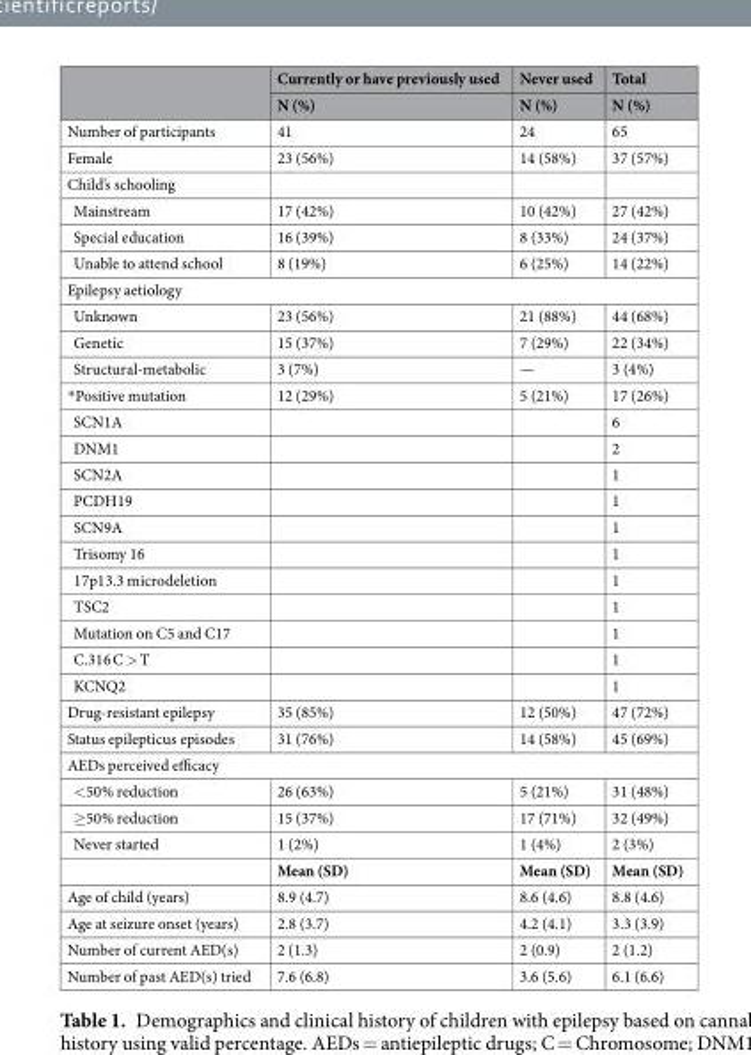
<table><thead><tr><td rowspan="2"></td><td rowspan="2">Currently or have previously used N (%)</td><td rowspan="2">Never used N (%)</td><td rowspan="2">Total N (%)</td></tr><tr></tr></thead><tbody><tr><td>Number of participants</td><td>41</td><td>24</td><td>65</td></tr><tr><td>Female</td><td>23 (56%)</td><td>14 (58%)</td><td>37 (57%)</td></tr><tr><td colspan="4">Child’s schooling</td></tr><tr><td>Mainstream</td><td>17 (42%)</td><td>10 (42%)</td><td>27 (42%)</td></tr><tr><td>Special education</td><td>16 (39%)</td><td>8 (33%)</td><td>24 (37%)</td></tr><tr><td>Unable to attend school</td><td>8 (19%)</td><td>6 (25%)</td><td>14 (22%)</td></tr><tr><td colspan="4">Epilepsy aetiology</td></tr><tr><td>Unknown</td><td>23 (56%)</td><td>21 (88%)</td><td>44 (68%)</td></tr><tr><td>Genetic</td><td>15 (37%)</td><td>7 (29%)</td><td>22 (34%)</td></tr><tr><td>Structural-metabolic</td><td>3 (7%)</td><td>—</td><td>3 (4%)</td></tr><tr><td>*Positive mutation</td><td>12 (29%)</td><td>5 (21%)</td><td>17 (26%)</td></tr><tr><td>SCN1A</td><td></td><td></td><td>6</td></tr><tr><td>DNM1</td><td></td><td></td><td>2</td></tr><tr><td>SCN2A</td><td></td><td></td><td>1</td></tr><tr><td>PCDH19</td><td></td><td></td><td>1</td></tr><tr><td>SCN9A</td><td></td><td></td><td>1</td></tr><tr><td>Trisomy 16</td><td></td><td></td><td>1</td></tr><tr><td>17p13.3 microdeletion</td><td></td><td></td><td>1</td></tr><tr><td>TSC2</td><td></td><td></td><td>1</td></tr><tr><td>Mutation on C5 and C17</td><td></td><td></td><td>1</td></tr><tr><td>C.316 C &gt; T</td><td></td><td></td><td>1</td></tr><tr><td>KCNQ2</td><td></td><td></td><td>1</td></tr><tr><td>Drug-resistant epilepsy</td><td>35 (85%)</td><td>12 (50%)</td><td>47 (72%)</td></tr><tr><td>Status epilepticus episodes</td><td>31 (76%)</td><td>14 (58%)</td><td>45 (69%)</td></tr><tr><td colspan="4">AEDs perceived efficacy</td></tr><tr><td>&lt;50% reduction</td><td>26 (63%)</td><td>5 (21%)</td><td>31 (48%)</td></tr><tr><td>≥50% reduction</td><td>15 (37%)</td><td>17 (71%)</td><td>32 (49%)</td></tr><tr><td rowspan="2">Never started</td><td>1 (2%)</td><td>1 (4%)</td><td>2 (3%)</td></tr><tr><td>Mean (SD)</td><td>Mean (SD)</td><td>Mean (SD)</td></tr><tr><td>Age of child (years)</td><td>8.9 (4.7)</td><td>8.6 (4.6)</td><td>8.8 (4.6)</td></tr><tr><td>Age at seizure onset (years)</td><td>2.8 (3.7)</td><td>4.2 (4.1)</td><td>3.3 (3.9)</td></tr><tr><td>Number of current AED(s)</td><td>2 (1.3)</td><td>2 (0.9)</td><td>2 (1.2)</td></tr><tr><td>Number of past AED(s) tried</td><td>7.6 (6.8)</td><td>3.6 (5.6)</td><td>6.1 (6.6)</td></tr></tbody></table>